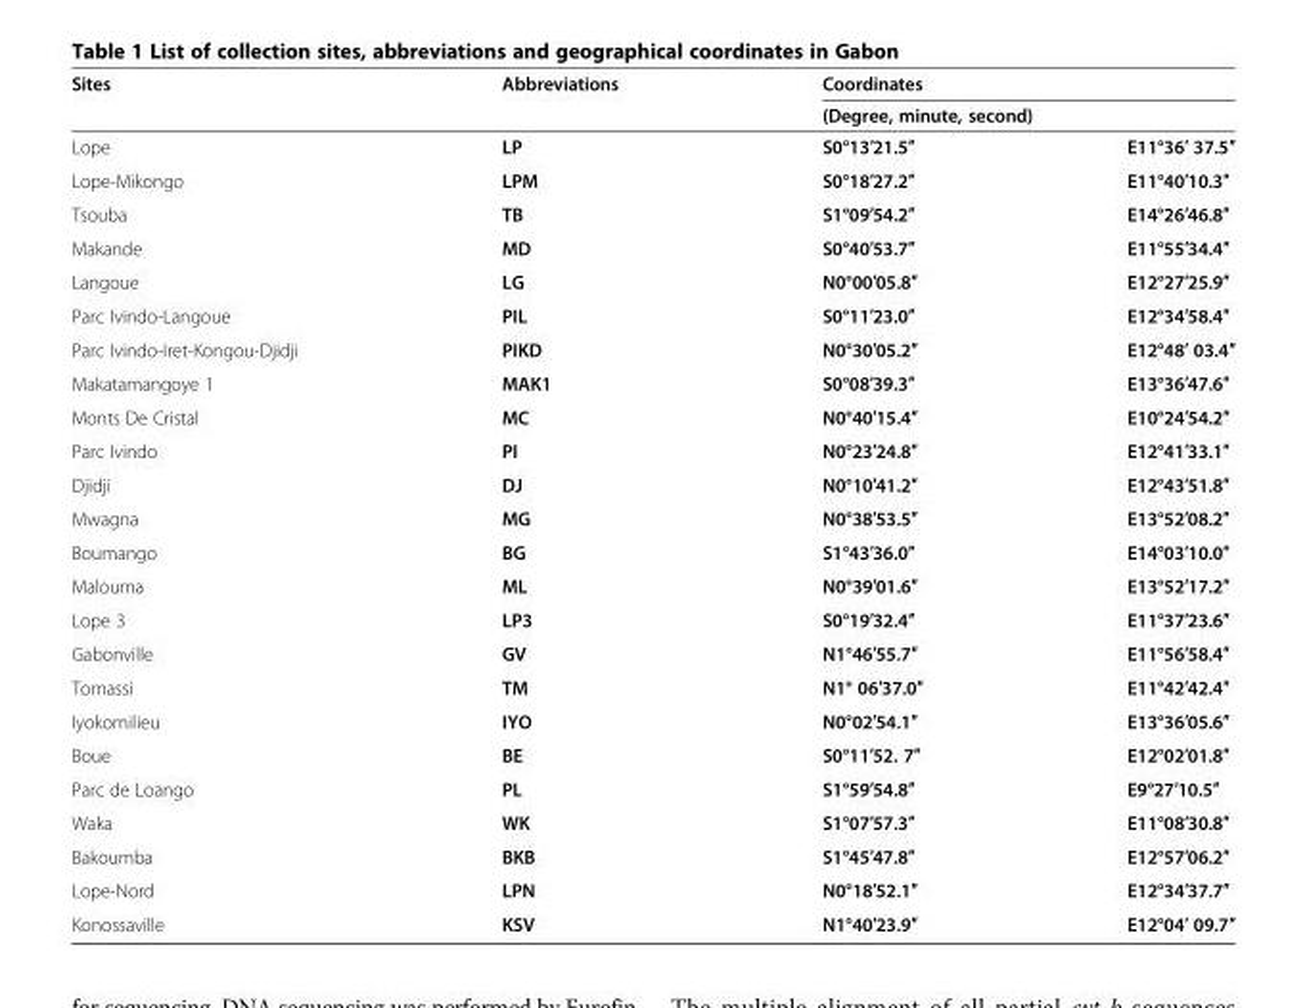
<table><thead><tr><td rowspan="3">Sites Lope</td><td rowspan="3">Abbreviations LP</td><td rowspan="2" colspan="2">Coordinates (Degree, minute, second)</td></tr><tr></tr><tr><td>S0°13′21.5″</td><td>E11°36′ 37.5″</td></tr></thead><tbody><tr><td>Lope-Mikongo</td><td>LPM</td><td>S0°18′27.2″</td><td>E11°40′10.3″</td></tr><tr><td>Tsouba</td><td>TB</td><td>S1°09′54.2″</td><td>E14°26′46.8″</td></tr><tr><td>Makande</td><td>MD</td><td>S0°40′53.7″</td><td>E11°55′34.4″</td></tr><tr><td>Langoue</td><td>LG</td><td>N0°00′05.8″</td><td>E12°27′25.9″</td></tr><tr><td>Parc Ivindo-Langoue</td><td>PIL</td><td>S0°11′23.0″</td><td>E12°34′58.4″</td></tr><tr><td>Parc Ivindo-Iret-Kongou-Djidji</td><td>PIKD</td><td>N0°30′05.2″</td><td>E12°48′ 03.4″</td></tr><tr><td>Makatamangoye 1</td><td>MAK1</td><td>S0°08′39.3″</td><td>E13°36′47.6″</td></tr><tr><td>Monts De Cristal</td><td>MC</td><td>N0°40′15.4″</td><td>E10°24′54.2″</td></tr><tr><td>Parc Ivindo</td><td>PI</td><td>N0°23′24.8″</td><td>E12°41′33.1″</td></tr><tr><td>Djidji</td><td>DJ</td><td>N0°10′41.2″</td><td>E12°43′51.8″</td></tr><tr><td>Mwagna</td><td>MG</td><td>N0°38′53.5″</td><td>E13°52′08.2″</td></tr><tr><td>Boumango</td><td>BG</td><td>S1°43′36.0″</td><td>E14°03′10.0″</td></tr><tr><td>Malouma</td><td>ML</td><td>N0°39′01.6″</td><td>E13°52′17.2″</td></tr><tr><td>Lope 3</td><td>LP3</td><td>S0°19′32.4″</td><td>E11°37′23.6″</td></tr><tr><td>Gabonville</td><td>GV</td><td>N1°46′55.7″</td><td>E11°56′58.4″</td></tr><tr><td>Tomassi</td><td>TM</td><td>N1° 06′37.0″</td><td>E11°42′42.4″</td></tr><tr><td>Iyokomilieu</td><td>IYO</td><td>N0°02′54.1″</td><td>E13°36′05.6″</td></tr><tr><td>Boue</td><td>BE</td><td>S0°11′52. 7″</td><td>E12°02′01.8″</td></tr><tr><td>Parc de Loango</td><td>PL</td><td>S1°59′54.8″</td><td>E9°27′10.5″</td></tr><tr><td>Waka</td><td>WK</td><td>S1°07′57.3″</td><td>E11°08′30.8″</td></tr><tr><td>Bakoumba</td><td>BKB</td><td>S1°45′47.8″</td><td>E12°57′06.2″</td></tr><tr><td>Lope-Nord</td><td>LPN</td><td>N0°18′52.1″</td><td>E12°34′37.7″</td></tr><tr><td>Konossaville</td><td>KSV</td><td>N1°40′23.9″</td><td>E12°04′ 09.7″</td></tr></tbody></table>